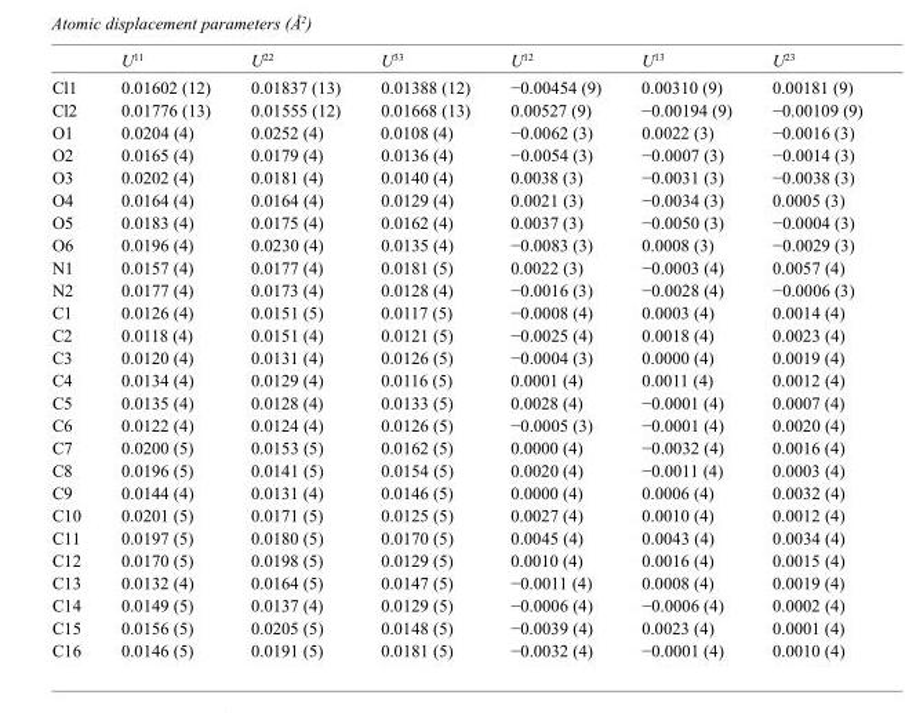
<table><thead><tr><td></td><td>U<sup>11</sup></td><td>U<sup>22</sup></td><td>U<sup>33</sup></td><td>U<sup>12</sup></td><td>U<sup>13</sup></td><td>U<sup>23</sup></td></tr></thead><tbody><tr><td>Cl1</td><td>0.01602 (12)</td><td>0.01837 (13)</td><td>0.01388 (12)</td><td>−0.00454 (9)</td><td>0.00310 (9)</td><td>0.00181 (9)</td></tr><tr><td>Cl2</td><td>0.01776 (13)</td><td>0.01555 (12)</td><td>0.01668 (13)</td><td>0.00527 (9)</td><td>−0.00194 (9)</td><td>−0.00109 (9)</td></tr><tr><td>O1</td><td>0.0204 (4)</td><td>0.0252 (4)</td><td>0.0108 (4)</td><td>−0.0062 (3)</td><td>0.0022 (3)</td><td>−0.0016 (3)</td></tr><tr><td>O2</td><td>0.0165 (4)</td><td>0.0179 (4)</td><td>0.0136 (4)</td><td>−0.0054 (3)</td><td>−0.0007 (3)</td><td>−0.0014 (3)</td></tr><tr><td>O3</td><td>0.0202 (4)</td><td>0.0181 (4)</td><td>0.0140 (4)</td><td>0.0038 (3)</td><td>−0.0031 (3)</td><td>−0.0038 (3)</td></tr><tr><td>O4</td><td>0.0164 (4)</td><td>0.0164 (4)</td><td>0.0129 (4)</td><td>0.0021 (3)</td><td>−0.0034 (3)</td><td>0.0005 (3)</td></tr><tr><td>O5</td><td>0.0183 (4)</td><td>0.0175 (4)</td><td>0.0162 (4)</td><td>0.0037 (3)</td><td>−0.0050 (3)</td><td>−0.0004 (3)</td></tr><tr><td>O6</td><td>0.0196 (4)</td><td>0.0230 (4)</td><td>0.0135 (4)</td><td>−0.0083 (3)</td><td>0.0008 (3)</td><td>−0.0029 (3)</td></tr><tr><td>N1</td><td>0.0157 (4)</td><td>0.0177 (4)</td><td>0.0181 (5)</td><td>0.0022 (3)</td><td>−0.0003 (4)</td><td>0.0057 (4)</td></tr><tr><td>N2</td><td>0.0177 (4)</td><td>0.0173 (4)</td><td>0.0128 (4)</td><td>−0.0016 (3)</td><td>−0.0028 (4)</td><td>−0.0006 (3)</td></tr><tr><td>C1</td><td>0.0126 (4)</td><td>0.0151 (5)</td><td>0.0117 (5)</td><td>−0.0008 (4)</td><td>0.0003 (4)</td><td>0.0014 (4)</td></tr><tr><td>C2</td><td>0.0118 (4)</td><td>0.0151 (4)</td><td>0.0121 (5)</td><td>−0.0025 (4)</td><td>0.0018 (4)</td><td>0.0023 (4)</td></tr><tr><td>C3</td><td>0.0120 (4)</td><td>0.0131 (4)</td><td>0.0126 (5)</td><td>−0.0004 (3)</td><td>0.0000 (4)</td><td>0.0019 (4)</td></tr><tr><td>C4</td><td>0.0134 (4)</td><td>0.0129 (4)</td><td>0.0116 (5)</td><td>0.0001 (4)</td><td>0.0011 (4)</td><td>0.0012 (4)</td></tr><tr><td>C5</td><td>0.0135 (4)</td><td>0.0128 (4)</td><td>0.0133 (5)</td><td>0.0028 (4)</td><td>−0.0001 (4)</td><td>0.0007 (4)</td></tr><tr><td>C6</td><td>0.0122 (4)</td><td>0.0124 (4)</td><td>0.0126 (5)</td><td>−0.0005 (3)</td><td>−0.0001 (4)</td><td>0.0020 (4)</td></tr><tr><td>C7</td><td>0.0200 (5)</td><td>0.0153 (5)</td><td>0.0162 (5)</td><td>0.0000 (4)</td><td>−0.0032 (4)</td><td>0.0016 (4)</td></tr><tr><td>C8</td><td>0.0196 (5)</td><td>0.0141 (5)</td><td>0.0154 (5)</td><td>0.0020 (4)</td><td>−0.0011 (4)</td><td>0.0003 (4)</td></tr><tr><td>C9</td><td>0.0144 (4)</td><td>0.0131 (4)</td><td>0.0146 (5)</td><td>0.0000 (4)</td><td>0.0006 (4)</td><td>0.0032 (4)</td></tr><tr><td>C10</td><td>0.0201 (5)</td><td>0.0171 (5)</td><td>0.0125 (5)</td><td>0.0027 (4)</td><td>0.0010 (4)</td><td>0.0012 (4)</td></tr><tr><td>C11</td><td>0.0197 (5)</td><td>0.0180 (5)</td><td>0.0170 (5)</td><td>0.0045 (4)</td><td>0.0043 (4)</td><td>0.0034 (4)</td></tr><tr><td>C12</td><td>0.0170 (5)</td><td>0.0198 (5)</td><td>0.0129 (5)</td><td>0.0010 (4)</td><td>0.0016 (4)</td><td>0.0015 (4)</td></tr><tr><td>C13</td><td>0.0132 (4)</td><td>0.0164 (5)</td><td>0.0147 (5)</td><td>−0.0011 (4)</td><td>0.0008 (4)</td><td>0.0019 (4)</td></tr><tr><td>C14</td><td>0.0149 (5)</td><td>0.0137 (4)</td><td>0.0129 (5)</td><td>−0.0006 (4)</td><td>−0.0006 (4)</td><td>0.0002 (4)</td></tr><tr><td>C15</td><td>0.0156 (5)</td><td>0.0205 (5)</td><td>0.0148 (5)</td><td>−0.0039 (4)</td><td>0.0023 (4)</td><td>0.0001 (4)</td></tr><tr><td>C16</td><td>0.0146 (5)</td><td>0.0191 (5)</td><td>0.0181 (5)</td><td>−0.0032 (4)</td><td>−0.0001 (4)</td><td>0.0010 (4)</td></tr></tbody></table>